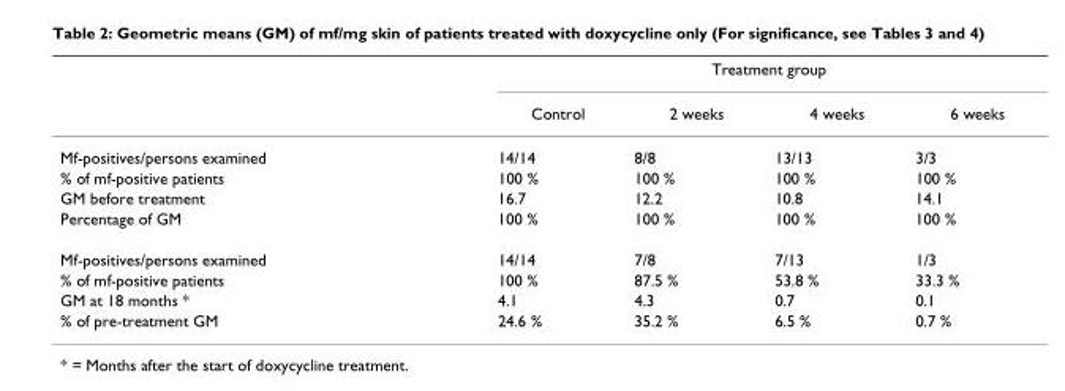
<table><thead><tr><td rowspan="2"></td><td colspan="4">Treatment group</td></tr><tr><td>Control</td><td>2 weeks</td><td>4 weeks</td><td>6 weeks</td></tr></thead><tbody><tr><td>Mf-positives/persons examined</td><td>14/14</td><td>8/8</td><td>13/13</td><td>3/3</td></tr><tr><td>% of mf-positive patients</td><td>100 %</td><td>100 %</td><td>100 %</td><td>100 %</td></tr><tr><td>GM before treatment</td><td>16.7</td><td>12.2</td><td>10.8</td><td>14.1</td></tr><tr><td>Percentage of GM</td><td>100 %</td><td>100 %</td><td>100 %</td><td>100 %</td></tr><tr><td>Mf-positives/persons examined</td><td>14/14</td><td>7/8</td><td>7/13</td><td>1/3</td></tr><tr><td>% of mf-positive patients</td><td>100 %</td><td>87.5 %</td><td>53.8 %</td><td>33.3 %</td></tr><tr><td>GM at 18 months *</td><td>4.1</td><td>4.3</td><td>0.7</td><td>0.1</td></tr><tr><td>% of pre-treatment GM</td><td>24.6 %</td><td>35.2 %</td><td>6.5 %</td><td>0.7 %</td></tr></tbody></table>